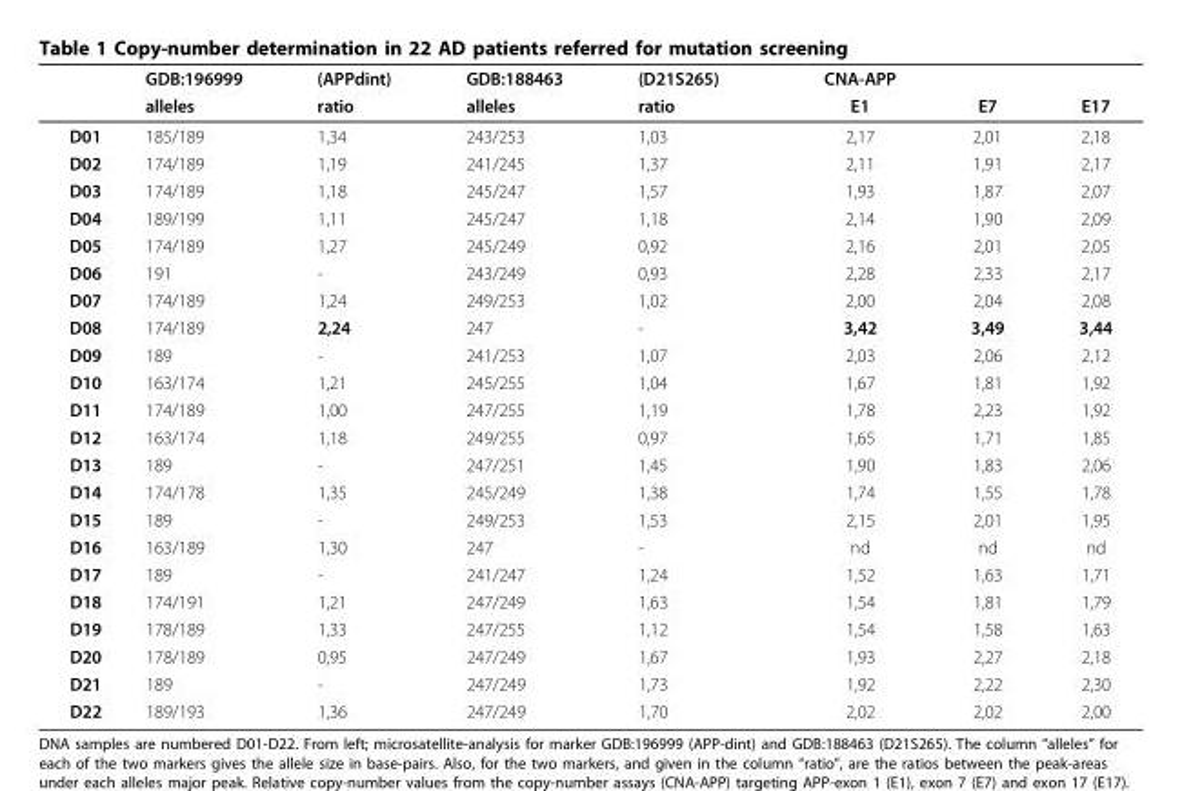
<table><thead><tr><td rowspan="2"></td><td rowspan="2">GDB:196999 alleles</td><td rowspan="2">(APPdint) ratio</td><td rowspan="2">GDB:188463 alleles</td><td rowspan="2">(D21S265) ratio</td><td rowspan="2">CNA-APP E1</td><td rowspan="2">E7</td><td rowspan="2">E17</td></tr><tr></tr></thead><tbody><tr><td>D01</td><td>185/189</td><td>1,34</td><td>243/253</td><td>1,03</td><td>2,17</td><td>2,01</td><td>2,18</td></tr><tr><td>D02</td><td>174/189</td><td>1,19</td><td>241/245</td><td>1,37</td><td>2,11</td><td>1,91</td><td>2,17</td></tr><tr><td>D03</td><td>174/189</td><td>1,18</td><td>245/247</td><td>1,57</td><td>1,93</td><td>1,87</td><td>2,07</td></tr><tr><td>D04</td><td>189/199</td><td>1,11</td><td>245/247</td><td>1,18</td><td>2,14</td><td>1,90</td><td>2,09</td></tr><tr><td>D05</td><td>174/189</td><td>1,27</td><td>245/249</td><td>0,92</td><td>2,16</td><td>2,01</td><td>2,05</td></tr><tr><td>D06</td><td>191</td><td>-</td><td>243/249</td><td>0,93</td><td>2,28</td><td>2,33</td><td>2,17</td></tr><tr><td>D07</td><td>174/189</td><td>1,24</td><td>249/253</td><td>1,02</td><td>2,00</td><td>2,04</td><td>2,08</td></tr><tr><td>D08</td><td>174/189</td><td>2,24</td><td>247</td><td>-</td><td>3,42</td><td>3,49</td><td>3,44</td></tr><tr><td>D09</td><td>189</td><td>-</td><td>241/253</td><td>1,07</td><td>2,03</td><td>2,06</td><td>2,12</td></tr><tr><td>D10</td><td>163/174</td><td>1,21</td><td>245/255</td><td>1,04</td><td>1,67</td><td>1,81</td><td>1,92</td></tr><tr><td>D11</td><td>174/189</td><td>1,00</td><td>247/255</td><td>1,19</td><td>1,78</td><td>2,23</td><td>1,92</td></tr><tr><td>D12</td><td>163/174</td><td>1,18</td><td>249/255</td><td>0,97</td><td>1,65</td><td>1,71</td><td>1,85</td></tr><tr><td>D13</td><td>189</td><td>-</td><td>247/251</td><td>1,45</td><td>1,90</td><td>1,83</td><td>2,06</td></tr><tr><td>D14</td><td>174/178</td><td>1,35</td><td>245/249</td><td>1,38</td><td>1,74</td><td>1,55</td><td>1,78</td></tr><tr><td>D15</td><td>189</td><td>-</td><td>249/253</td><td>1,53</td><td>2,15</td><td>2,01</td><td>1,95</td></tr><tr><td>D16</td><td>163/189</td><td>1,30</td><td>247</td><td>-</td><td>nd</td><td>nd</td><td>nd</td></tr><tr><td>D17</td><td>189</td><td>-</td><td>241/247</td><td>1,24</td><td>1,52</td><td>1,63</td><td>1,71</td></tr><tr><td>D18</td><td>174/191</td><td>1,21</td><td>247/249</td><td>1,63</td><td>1,54</td><td>1,81</td><td>1,79</td></tr><tr><td>D19</td><td>178/189</td><td>1,33</td><td>247/255</td><td>1,12</td><td>1,54</td><td>1,58</td><td>1,63</td></tr><tr><td>D20</td><td>178/189</td><td>0,95</td><td>247/249</td><td>1,67</td><td>1,93</td><td>2,27</td><td>2,18</td></tr><tr><td>D21</td><td>189</td><td>-</td><td>247/249</td><td>1,73</td><td>1,92</td><td>2,22</td><td>2,30</td></tr><tr><td>D22</td><td>189/193</td><td>1,36</td><td>247/249</td><td>1,70</td><td>2,02</td><td>2,02</td><td>2,00</td></tr></tbody></table>